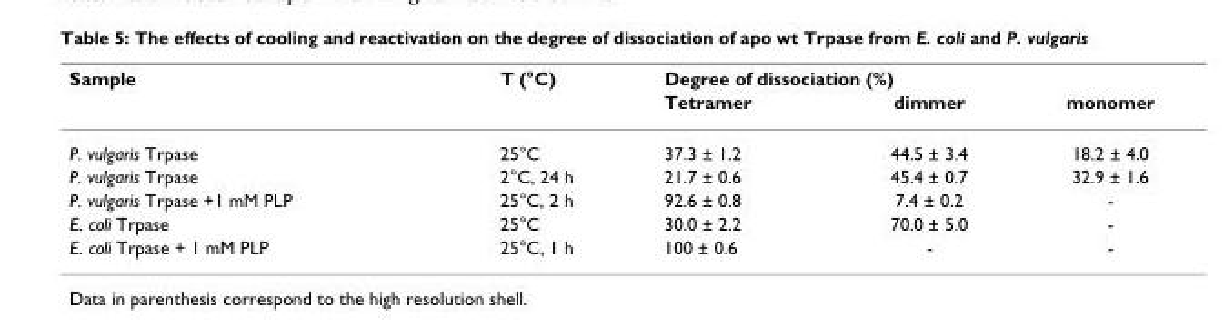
<table><thead><tr><td rowspan="2">Sample</td><td rowspan="2">T (°C)</td><td colspan="3">Degree of dissociation (%)</td></tr><tr><td>Tetramer</td><td>dimmer</td><td>monomer</td></tr></thead><tbody><tr><td>P. vulgaris Trpase</td><td>25°C</td><td>37.3 ± 1.2</td><td>44.5 ± 3.4</td><td>18.2 ± 4.0</td></tr><tr><td>P. vulgaris Trpase</td><td>2°C, 24 h</td><td>21.7 ± 0.6</td><td>45.4 ± 0.7</td><td>32.9 ± 1.6</td></tr><tr><td>P. vulgaris Trpase +1 mM PLP</td><td>25°C, 2 h</td><td>92.6 ± 0.8</td><td>7.4 ± 0.2</td><td>-</td></tr><tr><td>E. coli Trpase</td><td>25°C</td><td>30.0 ± 2.2</td><td>70.0 ± 5.0</td><td>-</td></tr><tr><td>E. coli Trpase + 1 mM PLP</td><td>25°C, 1 h</td><td>100 ± 0.6</td><td>-</td><td>-</td></tr></tbody></table>